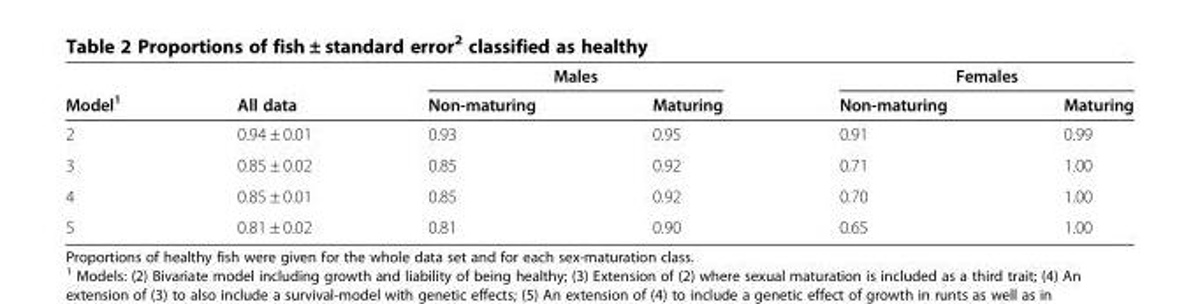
<table><thead><tr><td rowspan="2">Model<sup>1</sup></td><td rowspan="2">All data</td><td colspan="2">Males</td><td colspan="2">Females</td></tr><tr><td>Non-maturing</td><td>Maturing</td><td>Non-maturing</td><td>Maturing</td></tr></thead><tbody><tr><td>2</td><td>0.94 ± 0.01</td><td>0.93</td><td>0.95</td><td>0.91</td><td>0.99</td></tr><tr><td>3</td><td>0.85 ± 0.02</td><td>0.85</td><td>0.92</td><td>0.71</td><td>1.00</td></tr><tr><td>4</td><td>0.85 ± 0.01</td><td>0.85</td><td>0.92</td><td>0.70</td><td>1.00</td></tr><tr><td>5</td><td>0.81 ± 0.02</td><td>0.81</td><td>0.90</td><td>0.65</td><td>1.00</td></tr></tbody></table>